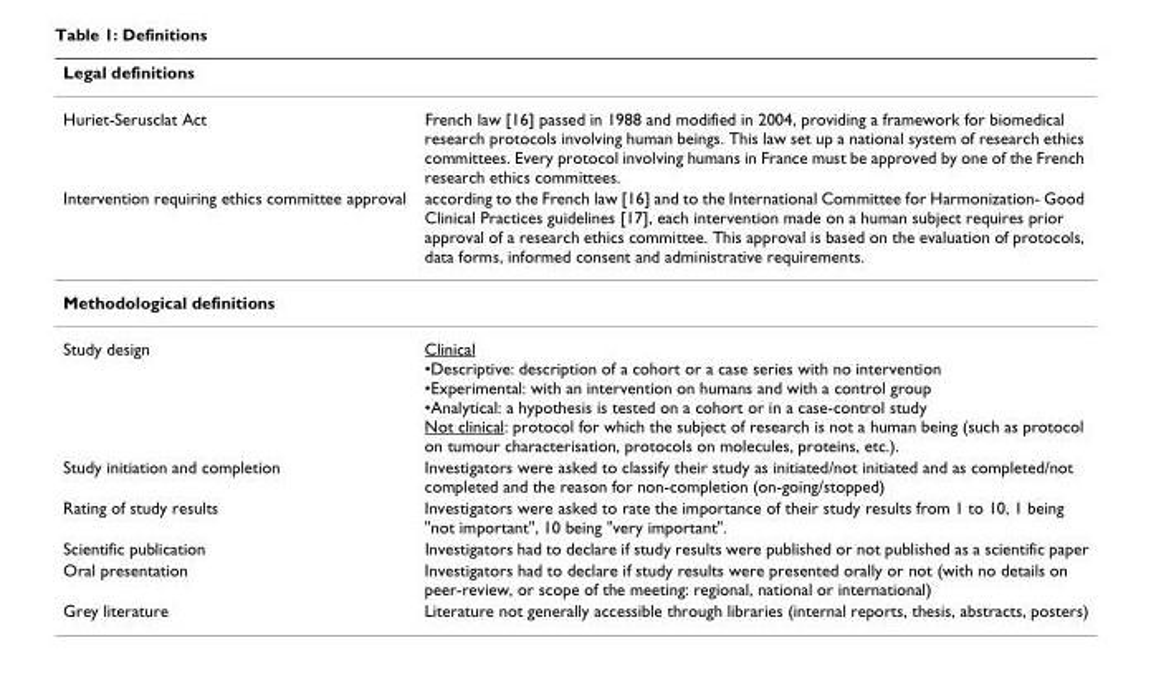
<table><thead><tr><td>Legal definitions</td><td></td></tr></thead><tbody><tr><td>Huriet-Serusclat Act</td><td>French law [16] passed in 1988 and modified in 2004, providing a framework for biomedical research protocols involving human beings. This law set up a national system of research ethics committees. Every protocol involving humans in France must be approved by one of the French research ethics committees.</td></tr><tr><td>Intervention requiring ethics committee approval</td><td>according to the French law [16] and to the International Committee for Harmonization- Good Clinical Practices guidelines [17], each intervention made on a human subject requires prior approval of a research ethics committee. This approval is based on the evaluation of protocols, data forms, informed consent and administrative requirements.</td></tr><tr><td colspan="2">Methodological definitions</td></tr><tr><td>Study design</td><td>Clinical •Descriptive: description of a cohort or a case series with no intervention •Experimental: with an intervention on humans and with a control group •Analytical: a hypothesis is tested on a cohort or in a case-control study Not clinical: protocol for which the subject of research is not a human being (such as protocol on tumour characterisation, protocols on molecules, proteins, etc.).</td></tr><tr><td>Study initiation and completion</td><td>Investigators were asked to classify their study as initiated/not initiated and as completed/not completed and the reason for non-completion (on-going/stopped)</td></tr><tr><td>Rating of study results</td><td>Investigators were asked to rate the importance of their study results from 1 to 10, 1 being &quot;not important&quot;, 10 being &quot;very important&quot;.</td></tr><tr><td>Scientific publication</td><td>Investigators had to declare if study results were published or not published as a scientific paper</td></tr><tr><td>Oral presentation</td><td>Investigators had to declare if study results were presented orally or not (with no details on peer-review, or scope of the meeting: regional, national or international)</td></tr><tr><td>Grey literature</td><td>Literature not generally accessible through libraries (internal reports, thesis, abstracts, posters)</td></tr></tbody></table>